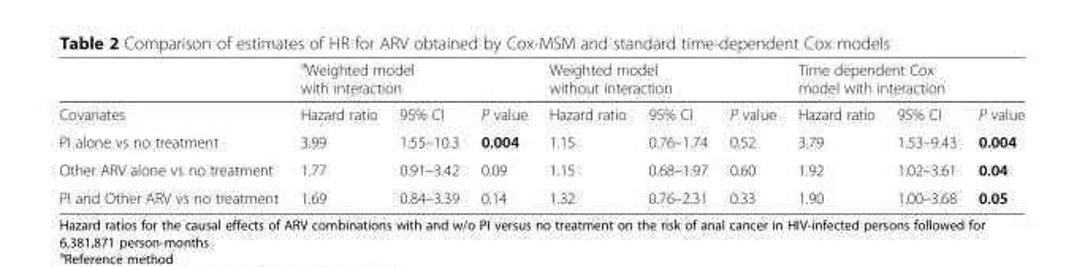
<table><thead><tr><td rowspan="2">Covariates</td><td colspan="3"><sup>a</sup>Weighted model with interaction</td><td colspan="3">Weighted model without interaction</td><td colspan="3">Time dependent Cox model with interaction</td></tr><tr><td>Hazard ratio</td><td>95% CI</td><td>P value</td><td>Hazard ratio</td><td>95% CI</td><td>P value</td><td>Hazard ratio</td><td>95% CI</td><td>P value</td></tr></thead><tbody><tr><td>PI alone vs no treatment</td><td>3.99</td><td>1.55–10.3</td><td>0.004</td><td>1.15</td><td>0.76–1.74</td><td>0.52</td><td>3.79</td><td>1.53–9.43</td><td>0.004</td></tr><tr><td>Other ARV alone vs no treatment</td><td>1.77</td><td>0.91–3.42</td><td>0.09</td><td>1.15</td><td>0.68–1.97</td><td>0.60</td><td>1.92</td><td>1.02–3.61</td><td>0.04</td></tr><tr><td>PI and Other ARV vs no treatment</td><td>1.69</td><td>0.84–3.39</td><td>0.14</td><td>1.32</td><td>0.76–2.31</td><td>0.33</td><td>1.90</td><td>1.00–3.68</td><td>0.05</td></tr></tbody></table>